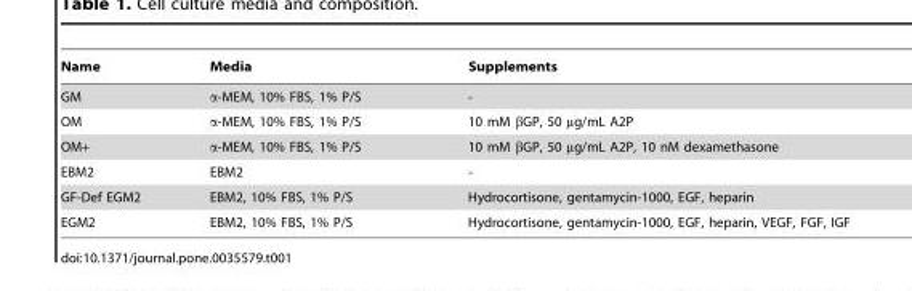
<table><thead><tr><td>Name</td><td>Media</td><td>Supplements</td></tr></thead><tbody><tr><td>GM</td><td>α-MEM, 10% FBS, 1% P/S</td><td>-</td></tr><tr><td>OM</td><td>α-MEM, 10% FBS, 1% P/S</td><td>10 mM βGP, 50 µg/mL A2P</td></tr><tr><td>OM+</td><td>α-MEM, 10% FBS, 1% P/S</td><td>10 mM βGP, 50 µg/mL A2P, 10 nM dexamethasone</td></tr><tr><td>EBM2</td><td>EBM2</td><td>-</td></tr><tr><td>GF-Def EGM2</td><td>EBM2, 10% FBS, 1% P/S</td><td>Hydrocortisone, gentamycin-1000, EGF, heparin</td></tr><tr><td>EGM2</td><td>EBM2, 10% FBS, 1% P/S</td><td>Hydrocortisone, gentamycin-1000, EGF, heparin, VEGF, FGF, IGF</td></tr></tbody></table>